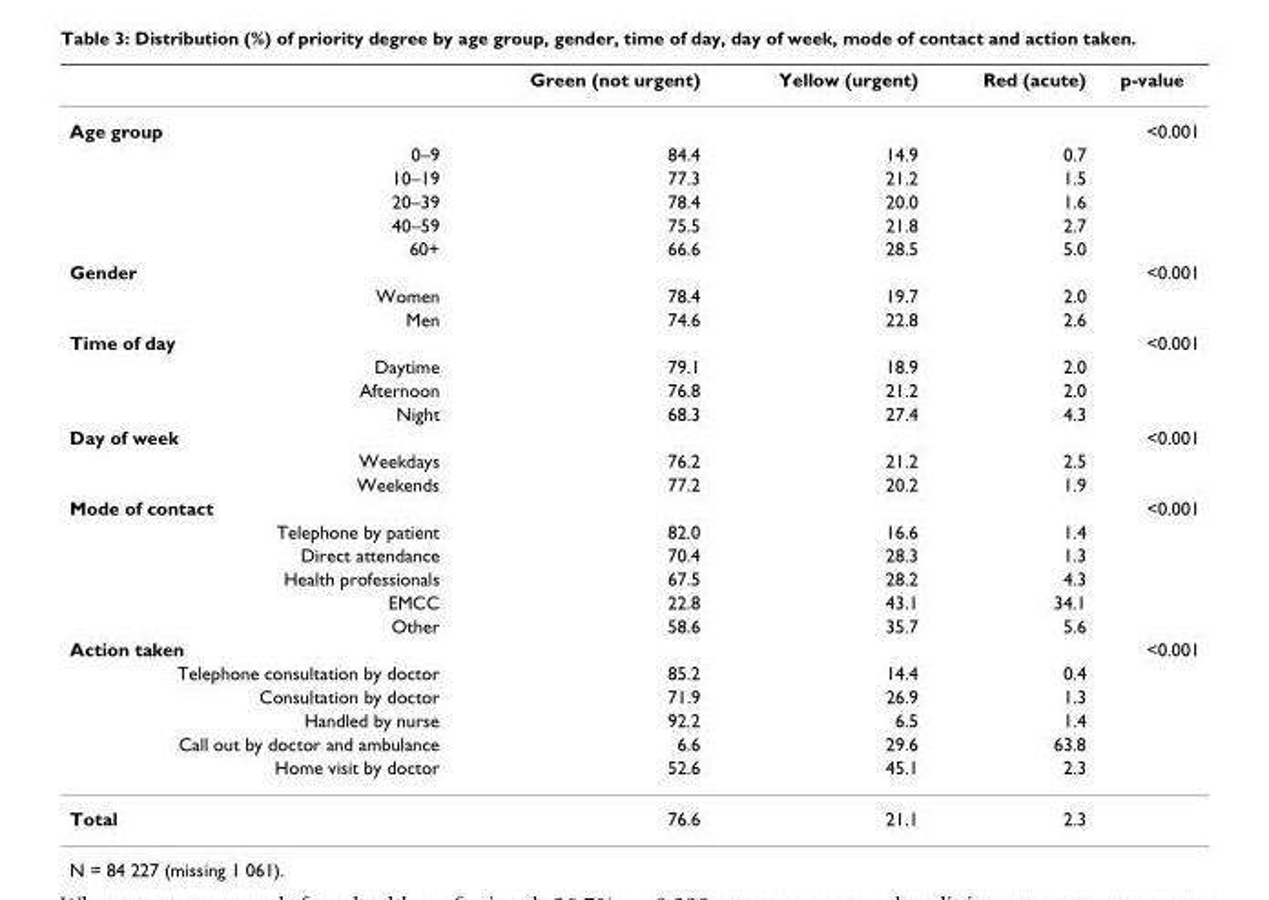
<table><thead><tr><td></td><td>Green (not urgent)</td><td>Yellow (urgent)</td><td>Red (acute)</td><td>p-value</td></tr></thead><tbody><tr><td>Age group</td><td></td><td></td><td></td><td>&lt;0.001</td></tr><tr><td>0–9</td><td>84.4</td><td>14.9</td><td>0.7</td><td></td></tr><tr><td>10–19</td><td>77.3</td><td>21.2</td><td>1.5</td><td></td></tr><tr><td>20–39</td><td>78.4</td><td>20.0</td><td>1.6</td><td></td></tr><tr><td>40–59</td><td>75.5</td><td>21.8</td><td>2.7</td><td></td></tr><tr><td>60+</td><td>66.6</td><td>28.5</td><td>5.0</td><td></td></tr><tr><td>Gender</td><td></td><td></td><td></td><td>&lt;0.001</td></tr><tr><td>Women</td><td>78.4</td><td>19.7</td><td>2.0</td><td></td></tr><tr><td>Men</td><td>74.6</td><td>22.8</td><td>2.6</td><td></td></tr><tr><td>Time of day</td><td></td><td></td><td></td><td>&lt;0.001</td></tr><tr><td>Daytime</td><td>79.1</td><td>18.9</td><td>2.0</td><td></td></tr><tr><td>Afternoon</td><td>76.8</td><td>21.2</td><td>2.0</td><td></td></tr><tr><td>Night</td><td>68.3</td><td>27.4</td><td>4.3</td><td></td></tr><tr><td>Day of week</td><td></td><td></td><td></td><td>&lt;0.001</td></tr><tr><td>Weekdays</td><td>76.2</td><td>21.2</td><td>2.5</td><td></td></tr><tr><td>Weekends</td><td>77.2</td><td>20.2</td><td>1.9</td><td></td></tr><tr><td>Mode of contact</td><td></td><td></td><td></td><td>&lt;0.001</td></tr><tr><td>Telephone by patient</td><td>82.0</td><td>16.6</td><td>1.4</td><td></td></tr><tr><td>Direct attendance</td><td>70.4</td><td>28.3</td><td>1.3</td><td></td></tr><tr><td>Health professionals</td><td>67.5</td><td>28.2</td><td>4.3</td><td></td></tr><tr><td>EMCC</td><td>22.8</td><td>43.1</td><td>34.1</td><td></td></tr><tr><td>Other</td><td>58.6</td><td>35.7</td><td>5.6</td><td></td></tr><tr><td>Action taken</td><td></td><td></td><td></td><td>&lt;0.001</td></tr><tr><td>Telephone consultation by doctor</td><td>85.2</td><td>14.4</td><td>0.4</td><td></td></tr><tr><td>Consultation by doctor</td><td>71.9</td><td>26.9</td><td>1.3</td><td></td></tr><tr><td>Handled by nurse</td><td>92.2</td><td>6.5</td><td>1.4</td><td></td></tr><tr><td>Call out by doctor and ambulance</td><td>6.6</td><td>29.6</td><td>63.8</td><td></td></tr><tr><td>Home visit by doctor</td><td>52.6</td><td>45.1</td><td>2.3</td><td></td></tr><tr><td>Total</td><td>76.6</td><td>21.1</td><td>2.3</td><td></td></tr></tbody></table>